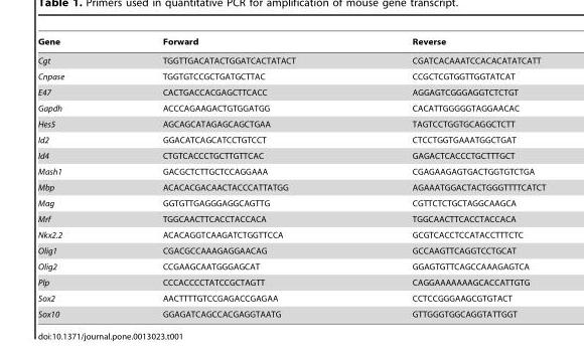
<table><thead><tr><td>Gene</td><td>Forward</td><td>Reverse</td></tr></thead><tbody><tr><td>Cgt</td><td>TGGTTGACATACTGGATCACTATACT</td><td>CGATCACAAATCCACACATATCATT</td></tr><tr><td>Cnpase</td><td>TGGTGTCCGCTGATGCTTAC</td><td>CCGCTCGTGGTTGGTATCAT</td></tr><tr><td>E47</td><td>CACTGACCACGAGCTTCACC</td><td>AGGAGTCGGGAGGTCTCTGT</td></tr><tr><td>Gapdh</td><td>ACCCAGAAGACTGTGGATGG</td><td>CACATTGGGGGTAGGAACAC</td></tr><tr><td>Hes5</td><td>AGCAGCATAGAGCAGCTGAA</td><td>TAGTCCTGGTGCAGGCTCTT</td></tr><tr><td>Id2</td><td>GGACATCAGCATCCTGTCCT</td><td>CTCCTGGTGAAATGGCTGAT</td></tr><tr><td>Id4</td><td>CTGTCACCCTGCTTGTTCAC</td><td>GAGACTCACCCTGCTTTGCT</td></tr><tr><td>Mash1</td><td>GACGCTCTTGCTCCAGGAAA</td><td>CGAGAAGAGTGACTGGTGTCTGA</td></tr><tr><td>Mbp</td><td>ACACACGACAACTACCCATTATGG</td><td>AGAAATGGACTACTGGGTTTTCATCT</td></tr><tr><td>Mag</td><td>GGTGTTGAGGGAGGCAGTTG</td><td>CGTTCTCTGCTAGGCAAGCA</td></tr><tr><td>Mrf</td><td>TGGCAACTTCACCTACCACA</td><td>TGGCAACTTCACCTACCACA</td></tr><tr><td>Nkx2.2</td><td>ACACAGGTCAAGATCTGGTTCCA</td><td>GCGTCACCTCCATACCTTTCTC</td></tr><tr><td>Olig1</td><td>CGACGCCAAAGAGGAACAG</td><td>GCCAAGTTCAGGTCCTGCAT</td></tr><tr><td>Olig2</td><td>CCGAAGCAATGGGAGCAT</td><td>GGAGTGTTCAGCCAAAGAGTCA</td></tr><tr><td>Plp</td><td>CCCACCCCTATCCGCTAGTT</td><td>CAGGAAAAAAAGCACCATTGTG</td></tr><tr><td>Sox2</td><td>AACTTTTGTCCGAGACCGAGAA</td><td>CCTCCGGGAAGCGTGTACT</td></tr><tr><td>Sox10</td><td>GGAGATCAGCCACGAGGTAATG</td><td>GTTGGGTGGCAGGTATTGGT</td></tr></tbody></table>